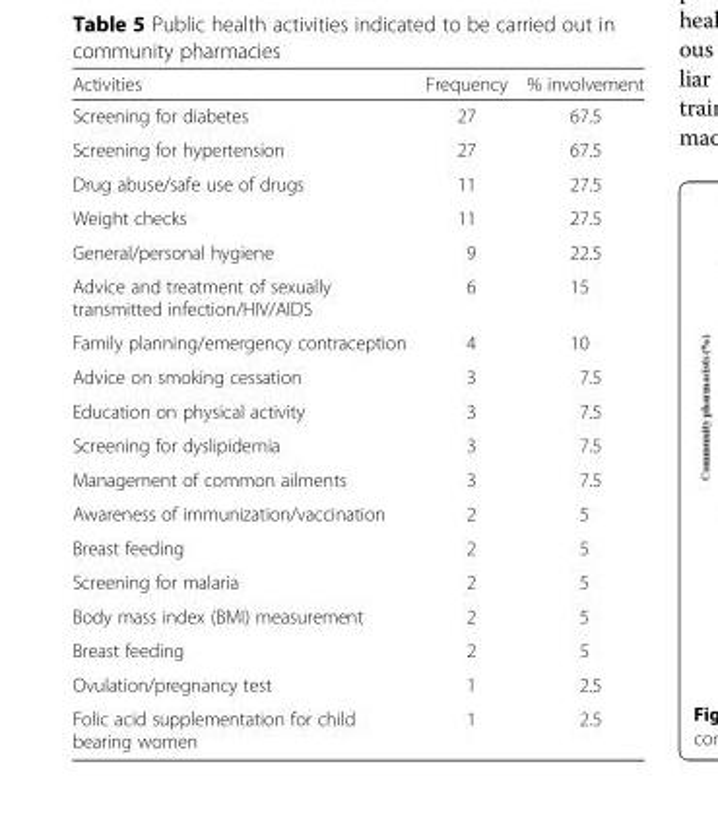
<table><thead><tr><td>Activities</td><td>Frequency</td><td>% involvement</td></tr></thead><tbody><tr><td>Screening for diabetes</td><td>27</td><td>67.5</td></tr><tr><td>Screening for hypertension</td><td>27</td><td>67.5</td></tr><tr><td>Drug abuse/safe use of drugs</td><td>11</td><td>27.5</td></tr><tr><td>Weight checks</td><td>11</td><td>27.5</td></tr><tr><td>General/personal hygiene</td><td>9</td><td>22.5</td></tr><tr><td>Advice and treatment of sexually transmitted infection/HIV/AIDS</td><td>6</td><td>15</td></tr><tr><td>Family planning/emergency contraception</td><td>4</td><td>10</td></tr><tr><td>Advice on smoking cessation</td><td>3</td><td>7.5</td></tr><tr><td>Education on physical activity</td><td>3</td><td>7.5</td></tr><tr><td>Screening for dyslipidemia</td><td>3</td><td>7.5</td></tr><tr><td>Management of common ailments</td><td>3</td><td>7.5</td></tr><tr><td>Awareness of immunization/vaccination</td><td>2</td><td>5</td></tr><tr><td>Breast feeding</td><td>2</td><td>5</td></tr><tr><td>Screening for malaria</td><td>2</td><td>5</td></tr><tr><td>Body mass index (BMI) measurement</td><td>2</td><td>5</td></tr><tr><td>Breast feeding</td><td>2</td><td>5</td></tr><tr><td>Ovulation/pregnancy test</td><td>1</td><td>2.5</td></tr><tr><td>Folic acid supplementation for child bearing women</td><td>1</td><td>2.5</td></tr></tbody></table>